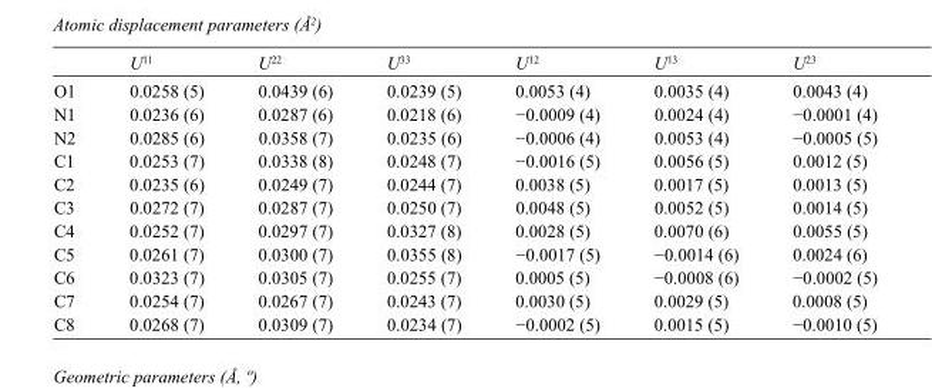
<table><thead><tr><td></td><td>U<sup>11</sup></td><td>U<sup>22</sup></td><td>U<sup>33</sup></td><td>U<sup>12</sup></td><td>U<sup>13</sup></td><td>U<sup>23</sup></td></tr></thead><tbody><tr><td>O1</td><td>0.0258 (5)</td><td>0.0439 (6)</td><td>0.0239 (5)</td><td>0.0053 (4)</td><td>0.0035 (4)</td><td>0.0043 (4)</td></tr><tr><td>N1</td><td>0.0236 (6)</td><td>0.0287 (6)</td><td>0.0218 (6)</td><td>−0.0009 (4)</td><td>0.0024 (4)</td><td>−0.0001 (4)</td></tr><tr><td>N2</td><td>0.0285 (6)</td><td>0.0358 (7)</td><td>0.0235 (6)</td><td>−0.0006 (4)</td><td>0.0053 (4)</td><td>−0.0005 (5)</td></tr><tr><td>C1</td><td>0.0253 (7)</td><td>0.0338 (8)</td><td>0.0248 (7)</td><td>−0.0016 (5)</td><td>0.0056 (5)</td><td>0.0012 (5)</td></tr><tr><td>C2</td><td>0.0235 (6)</td><td>0.0249 (7)</td><td>0.0244 (7)</td><td>0.0038 (5)</td><td>0.0017 (5)</td><td>0.0013 (5)</td></tr><tr><td>C3</td><td>0.0272 (7)</td><td>0.0287 (7)</td><td>0.0250 (7)</td><td>0.0048 (5)</td><td>0.0052 (5)</td><td>0.0014 (5)</td></tr><tr><td>C4</td><td>0.0252 (7)</td><td>0.0297 (7)</td><td>0.0327 (8)</td><td>0.0028 (5)</td><td>0.0070 (6)</td><td>0.0055 (5)</td></tr><tr><td>C5</td><td>0.0261 (7)</td><td>0.0300 (7)</td><td>0.0355 (8)</td><td>−0.0017 (5)</td><td>−0.0014 (6)</td><td>0.0024 (6)</td></tr><tr><td>C6</td><td>0.0323 (7)</td><td>0.0305 (7)</td><td>0.0255 (7)</td><td>0.0005 (5)</td><td>−0.0008 (6)</td><td>−0.0002 (5)</td></tr><tr><td>C7</td><td>0.0254 (7)</td><td>0.0267 (7)</td><td>0.0243 (7)</td><td>0.0030 (5)</td><td>0.0029 (5)</td><td>0.0008 (5)</td></tr><tr><td>C8</td><td>0.0268 (7)</td><td>0.0309 (7)</td><td>0.0234 (7)</td><td>−0.0002 (5)</td><td>0.0015 (5)</td><td>−0.0010 (5)</td></tr></tbody></table>